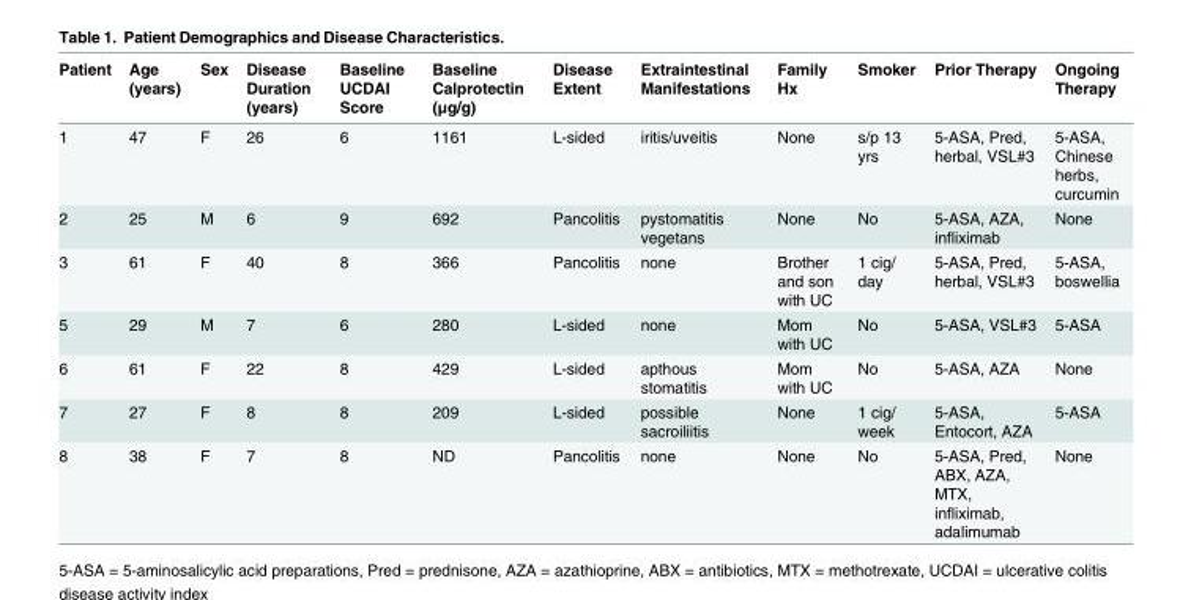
<table><thead><tr><td>Patient</td><td>Age (years)</td><td>Sex</td><td>Disease Duration (years)</td><td>Baseline UCDAI Score</td><td>Baseline Calprotectin (μg/g)</td><td>Disease Extent</td><td>Extraintestinal Manifestations</td><td>Family Hx</td><td>Smoker</td><td>Prior Therapy</td><td>Ongoing Therapy</td></tr></thead><tbody><tr><td>1</td><td>47</td><td>F</td><td>26</td><td>6</td><td>1161</td><td>L-sided</td><td>iritis/uveitis</td><td>None</td><td>s/p 13 yrs</td><td>5-ASA, Pred, herbal, VSL#3</td><td>5-ASA, Chinese herbs, curcumin</td></tr><tr><td>2</td><td>25</td><td>M</td><td>6</td><td>9</td><td>692</td><td>Pancolitis</td><td>pystomatitis vegetans</td><td>None</td><td>No</td><td>5-ASA, AZA, infliximab</td><td>None</td></tr><tr><td>3</td><td>61</td><td>F</td><td>40</td><td>8</td><td>366</td><td>Pancolitis</td><td>none</td><td>Brother and son with UC</td><td>1 cig/ day</td><td>5-ASA, Pred, herbal, VSL#3</td><td>5-ASA, boswellia</td></tr><tr><td>5</td><td>29</td><td>M</td><td>7</td><td>6</td><td>280</td><td>L-sided</td><td>none</td><td>Mom with UC</td><td>No</td><td>5-ASA, VSL#3</td><td>5-ASA</td></tr><tr><td>6</td><td>61</td><td>F</td><td>22</td><td>8</td><td>429</td><td>L-sided</td><td>apthous stomatitis</td><td>Mom with UC</td><td>No</td><td>5-ASA, AZA</td><td>None</td></tr><tr><td>7</td><td>27</td><td>F</td><td>8</td><td>8</td><td>209</td><td>L-sided</td><td>possible sacroiliitis</td><td>None</td><td>1 cig/ week</td><td>5-ASA, Entocort, AZA</td><td>5-ASA</td></tr><tr><td>8</td><td>38</td><td>F</td><td>7</td><td>8</td><td>ND</td><td>Pancolitis</td><td>none</td><td>None</td><td>No</td><td>5-ASA, Pred, ABX, AZA, MTX, infliximab, adalimumab</td><td>None</td></tr></tbody></table>